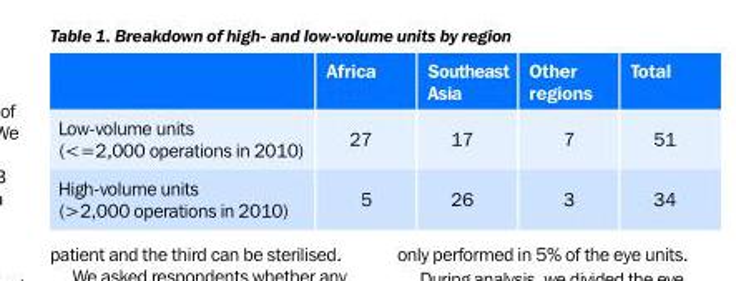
<table><thead><tr><td></td><td>Africa</td><td>Southeast Asia</td><td>Other regions</td><td>Total</td></tr></thead><tbody><tr><td>Low-volume units (&lt;=2,000 operations in 2010)</td><td>27</td><td>17</td><td>7</td><td>51</td></tr><tr><td>High-volume units (&gt;2,000 operations in 2010)</td><td>5</td><td>26</td><td>3</td><td>34</td></tr></tbody></table>